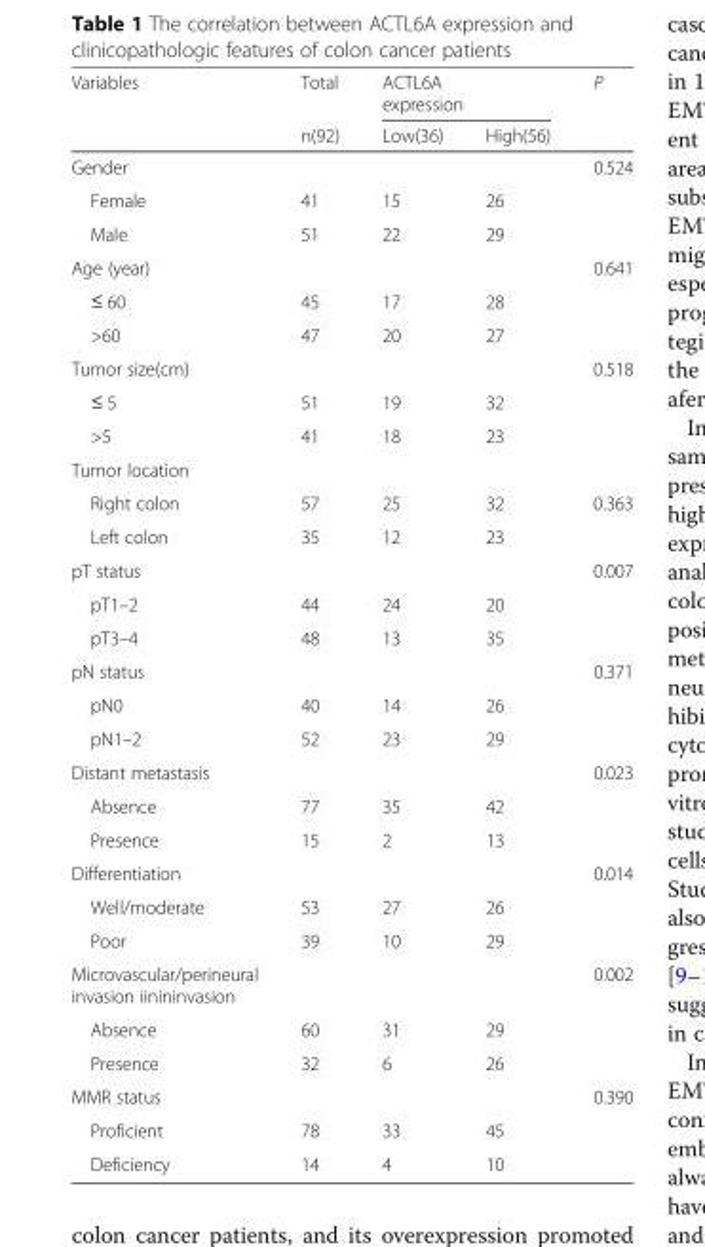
<table><thead><tr><td rowspan="2">Variables</td><td rowspan="2">Total n(92)</td><td colspan="2">ACTL6A expression</td><td rowspan="2">P</td></tr><tr><td>Low(36)</td><td>High(56)</td></tr></thead><tbody><tr><td>Gender</td><td></td><td></td><td></td><td>0.524</td></tr><tr><td>Female</td><td>41</td><td>15</td><td>26</td><td></td></tr><tr><td>Male</td><td>51</td><td>22</td><td>29</td><td></td></tr><tr><td>Age (year)</td><td></td><td></td><td></td><td>0.641</td></tr><tr><td>≤ 60</td><td>45</td><td>17</td><td>28</td><td></td></tr><tr><td>&gt;60</td><td>47</td><td>20</td><td>27</td><td></td></tr><tr><td>Tumor size(cm)</td><td></td><td></td><td></td><td>0.518</td></tr><tr><td>≤ 5</td><td>51</td><td>19</td><td>32</td><td></td></tr><tr><td>&gt;5</td><td>41</td><td>18</td><td>23</td><td></td></tr><tr><td colspan="5">Tumor location</td></tr><tr><td>Right colon</td><td>57</td><td>25</td><td>32</td><td>0.363</td></tr><tr><td>Left colon</td><td>35</td><td>12</td><td>23</td><td></td></tr><tr><td>pT status</td><td></td><td></td><td></td><td>0.007</td></tr><tr><td>pT1–2</td><td>44</td><td>24</td><td>20</td><td></td></tr><tr><td>pT3–4</td><td>48</td><td>13</td><td>35</td><td></td></tr><tr><td>pN status</td><td></td><td></td><td></td><td>0.371</td></tr><tr><td>pN0</td><td>40</td><td>14</td><td>26</td><td></td></tr><tr><td>pN1–2</td><td>52</td><td>23</td><td>29</td><td></td></tr><tr><td>Distant metastasis</td><td></td><td></td><td></td><td>0.023</td></tr><tr><td>Absence</td><td>77</td><td>35</td><td>42</td><td></td></tr><tr><td>Presence</td><td>15</td><td>2</td><td>13</td><td></td></tr><tr><td>Differentiation</td><td></td><td></td><td></td><td>0.014</td></tr><tr><td>Well/moderate</td><td>53</td><td>27</td><td>26</td><td></td></tr><tr><td>Poor</td><td>39</td><td>10</td><td>29</td><td></td></tr><tr><td>Microvascular/perineural invasion iinininvasion</td><td></td><td></td><td></td><td>0.002</td></tr><tr><td>Absence</td><td>60</td><td>31</td><td>29</td><td></td></tr><tr><td>Presence</td><td>32</td><td>6</td><td>26</td><td></td></tr><tr><td>MMR status</td><td></td><td></td><td></td><td>0.390</td></tr><tr><td>Proficient</td><td>78</td><td>33</td><td>45</td><td></td></tr><tr><td>Deficiency</td><td>14</td><td>4</td><td>10</td><td></td></tr></tbody></table>